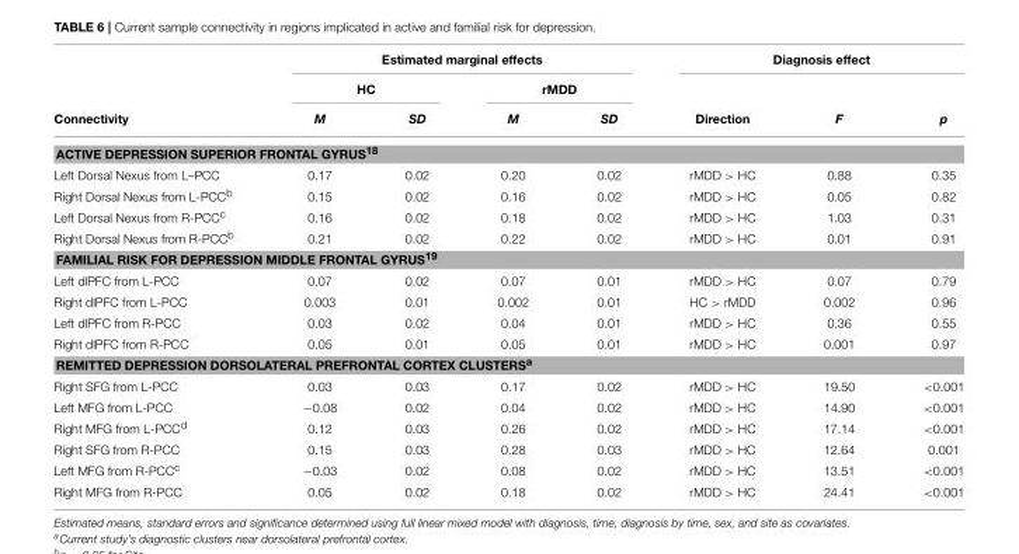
<table><thead><tr><td rowspan="3">Connectivity</td><td colspan="4">Estimated marginal effects</td><td colspan="3">Diagnosis effect</td></tr><tr><td colspan="2">HC</td><td colspan="2">rMDD</td><td rowspan="2">Direction</td><td rowspan="2">F</td><td rowspan="2">p</td></tr><tr><td>M</td><td>SD</td><td>M</td><td>SD</td></tr></thead><tbody><tr><td colspan="8">ACTIVE DEPRESSION SUPERIOR FRONTAL GYRUS<sup>18</sup></td></tr><tr><td>Left Dorsal Nexus from L–PCC</td><td>0.17</td><td>0.02</td><td>0.20</td><td>0.02</td><td>rMDD &gt; HC</td><td>0.88</td><td>0.35</td></tr><tr><td>Right Dorsal Nexus from L-PCC<sup>b</sup></td><td>0.15</td><td>0.02</td><td>0.16</td><td>0.02</td><td>rMDD &gt; HC</td><td>0.05</td><td>0.82</td></tr><tr><td>Left Dorsal Nexus from R-PCC<sup>c</sup></td><td>0.16</td><td>0.02</td><td>0.18</td><td>0.02</td><td>rMDD &gt; HC</td><td>1.03</td><td>0.31</td></tr><tr><td>Right Dorsal Nexus from R-PCC<sup>b</sup></td><td>0.21</td><td>0.02</td><td>0.22</td><td>0.02</td><td>rMDD &gt; HC</td><td>0.01</td><td>0.91</td></tr><tr><td colspan="8">FAMILIAL RISK FOR DEPRESSION MIDDLE FRONTAL GYRUS<sup>19</sup></td></tr><tr><td>Left dlPFC from L-PCC</td><td>0.07</td><td>0.02</td><td>0.07</td><td>0.01</td><td>rMDD &gt; HC</td><td>0.07</td><td>0.79</td></tr><tr><td>Right dlPFC from L-PCC</td><td>0.003</td><td>0.01</td><td>0.002</td><td>0.01</td><td>HC &gt; rMDD</td><td>0.002</td><td>0.96</td></tr><tr><td>Left dlPFC from R-PCC</td><td>0.03</td><td>0.02</td><td>0.04</td><td>0.01</td><td>rMDD &gt; HC</td><td>0.36</td><td>0.55</td></tr><tr><td>Right dlPFC from R-PCC</td><td>0.05</td><td>0.01</td><td>0.05</td><td>0.01</td><td>rMDD &gt; HC</td><td>0.001</td><td>0.97</td></tr><tr><td colspan="8">REMITTED DEPRESSION DORSOLATERAL PREFRONTAL CORTEX CLUSTERS<sup>a</sup></td></tr><tr><td>Right SFG from L-PCC</td><td>0.03</td><td>0.03</td><td>0.17</td><td>0.02</td><td>rMDD &gt; HC</td><td>19.50</td><td>&lt;0.001</td></tr><tr><td>Left MFG from L-PCC</td><td>−0.08</td><td>0.02</td><td>0.04</td><td>0.02</td><td>rMDD &gt; HC</td><td>14.90</td><td>&lt;0.001</td></tr><tr><td>Right MFG from L-PCC<sup>d</sup></td><td>0.12</td><td>0.03</td><td>0.26</td><td>0.02</td><td>rMDD &gt; HC</td><td>17.14</td><td>&lt;0.001</td></tr><tr><td>Right SFG from R-PCC</td><td>0.15</td><td>0.03</td><td>0.28</td><td>0.03</td><td>rMDD &gt; HC</td><td>12.64</td><td>0.001</td></tr><tr><td>Left MFG from R-PCC<sup>c</sup></td><td>−0.03</td><td>0.02</td><td>0.08</td><td>0.02</td><td>rMDD &gt; HC</td><td>13.51</td><td>&lt;0.001</td></tr><tr><td>Right MFG from R-PCC</td><td>0.05</td><td>0.02</td><td>0.18</td><td>0.02</td><td>rMDD &gt; HC</td><td>24.41</td><td>&lt;0.001</td></tr></tbody></table>